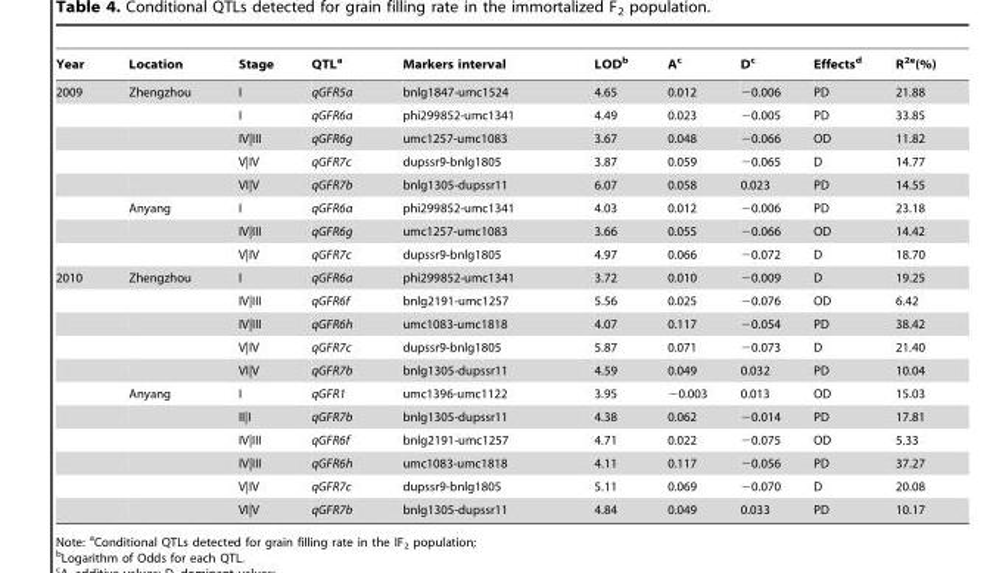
<table><thead><tr><td>Year</td><td>Location</td><td>Stage</td><td>QTL<sup>a</sup></td><td>Markers interval</td><td>LOD<sup>b</sup></td><td>A<sup>c</sup></td><td>D<sup>c</sup></td><td>Effects<sup>d</sup></td><td>R<sup>2e</sup>(%)</td></tr></thead><tbody><tr><td rowspan="8">2009</td><td>Zhengzhou</td><td>I</td><td>qGFR5a</td><td>bnlg1847-umc1524</td><td>4.65</td><td>0.012</td><td>−0.006</td><td>PD</td><td>21.88</td></tr><tr><td></td><td>I</td><td>qGFR6a</td><td>phi299852-umc1341</td><td>4.49</td><td>0.023</td><td>−0.005</td><td>PD</td><td>33.85</td></tr><tr><td></td><td>IV|III</td><td>qGFR6g</td><td>umc1257-umc1083</td><td>3.67</td><td>0.048</td><td>−0.066</td><td>OD</td><td>11.82</td></tr><tr><td></td><td>V|IV</td><td>qGFR7c</td><td>dupssr9-bnlg1805</td><td>3.87</td><td>0.059</td><td>−0.065</td><td>D</td><td>14.77</td></tr><tr><td></td><td>VI|V</td><td>qGFR7b</td><td>bnlg1305-dupssr11</td><td>6.07</td><td>0.058</td><td>0.023</td><td>PD</td><td>14.55</td></tr><tr><td>Anyang</td><td>I</td><td>qGFR6a</td><td>phi299852-umc1341</td><td>4.03</td><td>0.012</td><td>−0.006</td><td>PD</td><td>23.18</td></tr><tr><td></td><td>IV|III</td><td>qGFR6g</td><td>umc1257-umc1083</td><td>3.66</td><td>0.055</td><td>−0.066</td><td>OD</td><td>14.42</td></tr><tr><td></td><td>V|IV</td><td>qGFR7c</td><td>dupssr9-bnlg1805</td><td>4.97</td><td>0.066</td><td>−0.072</td><td>D</td><td>18.70</td></tr><tr><td rowspan="11">2010</td><td>Zhengzhou</td><td>I</td><td>qGFR6a</td><td>phi299852-umc1341</td><td>3.72</td><td>0.010</td><td>−0.009</td><td>D</td><td>19.25</td></tr><tr><td></td><td>IV|III</td><td>qGFR6f</td><td>bnlg2191-umc1257</td><td>5.56</td><td>0.025</td><td>−0.076</td><td>OD</td><td>6.42</td></tr><tr><td></td><td>IV|III</td><td>qGFR6h</td><td>umc1083-umc1818</td><td>4.07</td><td>0.117</td><td>−0.054</td><td>PD</td><td>38.42</td></tr><tr><td></td><td>V|IV</td><td>qGFR7c</td><td>dupssr9-bnlg1805</td><td>5.87</td><td>0.071</td><td>−0.073</td><td>D</td><td>21.40</td></tr><tr><td></td><td>VI|V</td><td>qGFR7b</td><td>bnlg1305-dupssr11</td><td>4.59</td><td>0.049</td><td>0.032</td><td>PD</td><td>10.04</td></tr><tr><td>Anyang</td><td>I</td><td>qGFR1</td><td>umc1396-umc1122</td><td>3.95</td><td>−0.003</td><td>0.013</td><td>OD</td><td>15.03</td></tr><tr><td></td><td>II|I</td><td>qGFR7b</td><td>bnlg1305-dupssr11</td><td>4.38</td><td>0.062</td><td>−0.014</td><td>PD</td><td>17.81</td></tr><tr><td></td><td>IV|III</td><td>qGFR6f</td><td>bnlg2191-umc1257</td><td>4.71</td><td>0.022</td><td>−0.075</td><td>OD</td><td>5.33</td></tr><tr><td></td><td>IV|III</td><td>qGFR6h</td><td>umc1083-umc1818</td><td>4.11</td><td>0.117</td><td>−0.056</td><td>PD</td><td>37.27</td></tr><tr><td></td><td>V|IV</td><td>qGFR7c</td><td>dupssr9-bnlg1805</td><td>5.11</td><td>0.069</td><td>−0.070</td><td>D</td><td>20.08</td></tr><tr><td></td><td>VI|V</td><td>qGFR7b</td><td>bnlg1305-dupssr11</td><td>4.84</td><td>0.049</td><td>0.033</td><td>PD</td><td>10.17</td></tr></tbody></table>